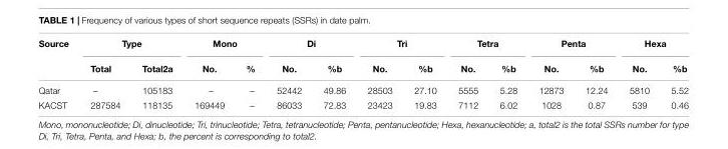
<table><thead><tr><td rowspan="2">Source</td><td colspan="2">Type</td><td colspan="2">Mono</td><td colspan="2">Di</td><td colspan="2">Tri</td><td colspan="2">Tetra</td><td colspan="2">Penta</td><td colspan="2">Hexa</td></tr><tr><td>Total</td><td>Total2a</td><td>No.</td><td>%</td><td>No.</td><td>%b</td><td>No.</td><td>%b</td><td>No.</td><td>%b</td><td>No.</td><td>%b</td><td>No.</td><td>%b</td></tr></thead><tbody><tr><td>Qatar</td><td>–</td><td>105183</td><td>–</td><td>–</td><td>52442</td><td>49.86</td><td>28503</td><td>27.10</td><td>5555</td><td>5.28</td><td>12873</td><td>12.24</td><td>5810</td><td>5.52</td></tr><tr><td>KACST</td><td>287584</td><td>118135</td><td>169449</td><td>–</td><td>86033</td><td>72.83</td><td>23423</td><td>19.83</td><td>7112</td><td>6.02</td><td>1028</td><td>0.87</td><td>539</td><td>0.46</td></tr></tbody></table>